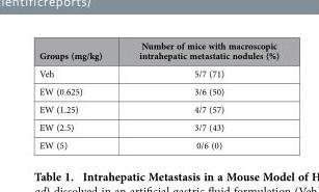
<table><thead><tr><td>Groups (mg/kg)</td><td>Number of mice with macroscopic intrahepatic metastatic nodules (%)</td></tr></thead><tbody><tr><td>Veh</td><td>5/7 (71)</td></tr><tr><td>EW (0.625)</td><td>3/6 (50)</td></tr><tr><td>EW (1.25)</td><td>4/7 (57)</td></tr><tr><td>EW (2.5)</td><td>3/7 (43)</td></tr><tr><td>EW (5)</td><td>0/6 (0)</td></tr></tbody></table>